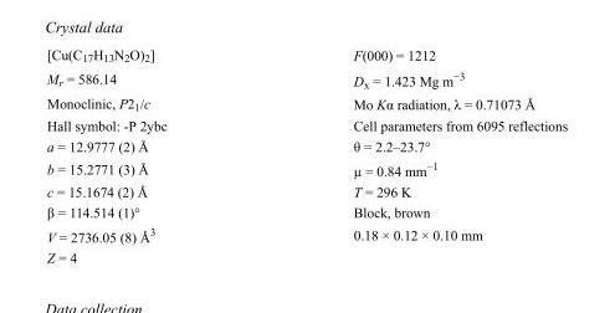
<table><tbody><tr><td>[Cu(C<sub>17</sub>H<sub>13</sub>N<sub>2</sub>O)<sub>2</sub>]</td><td>F(000) = 1212</td></tr><tr><td>M<sub>r</sub> = 586.14</td><td>D<sub>x</sub> = 1.423 Mg m<sup>−3</sup></td></tr><tr><td>Monoclinic, P2<sub>1</sub>/c</td><td>Mo Kα radiation, λ = 0.71073 Å</td></tr><tr><td>Hall symbol: -P 2ybc</td><td>Cell parameters from 6095 reflections</td></tr><tr><td>a = 12.9777 (2) Å</td><td>θ = 2.2–23.7°</td></tr><tr><td>b = 15.2771 (3) Å</td><td>µ = 0.84 mm<sup>−1</sup></td></tr><tr><td>c = 15.1674 (2) Å</td><td>T = 296 K</td></tr><tr><td>β = 114.514 (1)°</td><td>Block, brown</td></tr><tr><td>V = 2736.05 (8) Å<sup>3</sup></td><td>0.18 × 0.12 × 0.10 mm</td></tr><tr><td>Z = 4</td><td></td></tr></tbody></table>